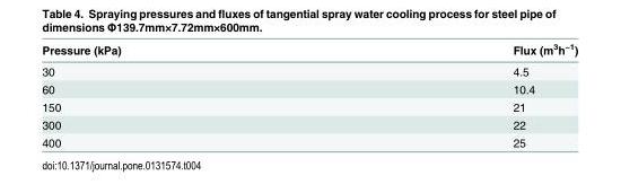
<table><thead><tr><td>Pressure (kPa)</td><td>Flux (m<sup>3</sup>h<sup>−1</sup>)</td></tr></thead><tbody><tr><td>30</td><td>4.5</td></tr><tr><td>60</td><td>10.4</td></tr><tr><td>150</td><td>21</td></tr><tr><td>300</td><td>22</td></tr><tr><td>400</td><td>25</td></tr></tbody></table>